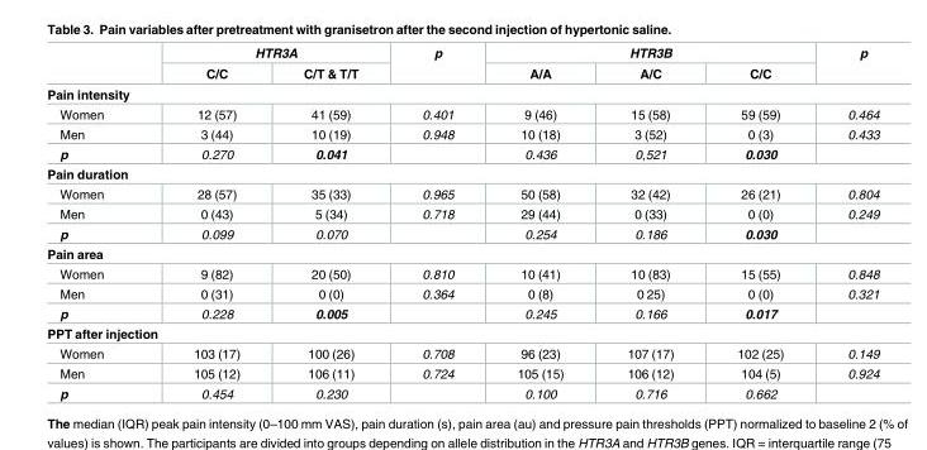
<table><thead><tr><td rowspan="2"></td><td colspan="2">HTR3A</td><td rowspan="2">p</td><td colspan="3">HTR3B</td><td rowspan="2">p</td></tr><tr><td>C/C</td><td>C/T &amp; T/T</td><td>A/A</td><td>A/C</td><td>C/C</td></tr></thead><tbody><tr><td colspan="8">Pain intensity</td></tr><tr><td>Women</td><td>12 (57)</td><td>41 (59)</td><td>0.401</td><td>9 (46)</td><td>15 (58)</td><td>59 (59)</td><td>0.464</td></tr><tr><td>Men</td><td>3 (44)</td><td>10 (19)</td><td>0.948</td><td>10 (18)</td><td>3 (52)</td><td>0 (3)</td><td>0.433</td></tr><tr><td>p</td><td>0.270</td><td>0.041</td><td></td><td>0.436</td><td>0,521</td><td>0.030</td><td></td></tr><tr><td colspan="8">Pain duration</td></tr><tr><td>Women</td><td>28 (57)</td><td>35 (33)</td><td>0.965</td><td>50 (58)</td><td>32 (42)</td><td>26 (21)</td><td>0.804</td></tr><tr><td>Men</td><td>0 (43)</td><td>5 (34)</td><td>0.718</td><td>29 (44)</td><td>0 (33)</td><td>0 (0)</td><td>0.249</td></tr><tr><td>p</td><td>0.099</td><td>0.070</td><td></td><td>0.254</td><td>0.186</td><td>0.030</td><td></td></tr><tr><td colspan="8">Pain area</td></tr><tr><td>Women</td><td>9 (82)</td><td>20 (50)</td><td>0.810</td><td>10 (41)</td><td>10 (83)</td><td>15 (55)</td><td>0.848</td></tr><tr><td>Men</td><td>0 (31)</td><td>0 (0)</td><td>0.364</td><td>0 (8)</td><td>0 25)</td><td>0 (0)</td><td>0.321</td></tr><tr><td>p</td><td>0.228</td><td>0.005</td><td></td><td>0.245</td><td>0.166</td><td>0.017</td><td></td></tr><tr><td colspan="8">PPT after injection</td></tr><tr><td>Women</td><td>103 (17)</td><td>100 (26)</td><td>0.708</td><td>96 (23)</td><td>107 (17)</td><td>102 (25)</td><td>0.149</td></tr><tr><td>Men</td><td>105 (12)</td><td>106 (11)</td><td>0.724</td><td>105 (15)</td><td>106 (12)</td><td>104 (5)</td><td>0.924</td></tr><tr><td>p</td><td>0.454</td><td>0.230</td><td></td><td>0.100</td><td>0.716</td><td>0.662</td><td></td></tr></tbody></table>